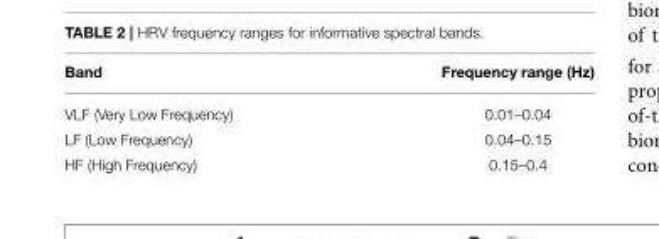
<table><thead><tr><td>Band</td><td>Frequency range (Hz)</td></tr></thead><tbody><tr><td>VLF (Very Low Frequency)</td><td>0.01–0.04</td></tr><tr><td>LF (Low Frequency)</td><td>0.04–0.15</td></tr><tr><td>HF (High Frequency)</td><td>0.15–0.4</td></tr></tbody></table>